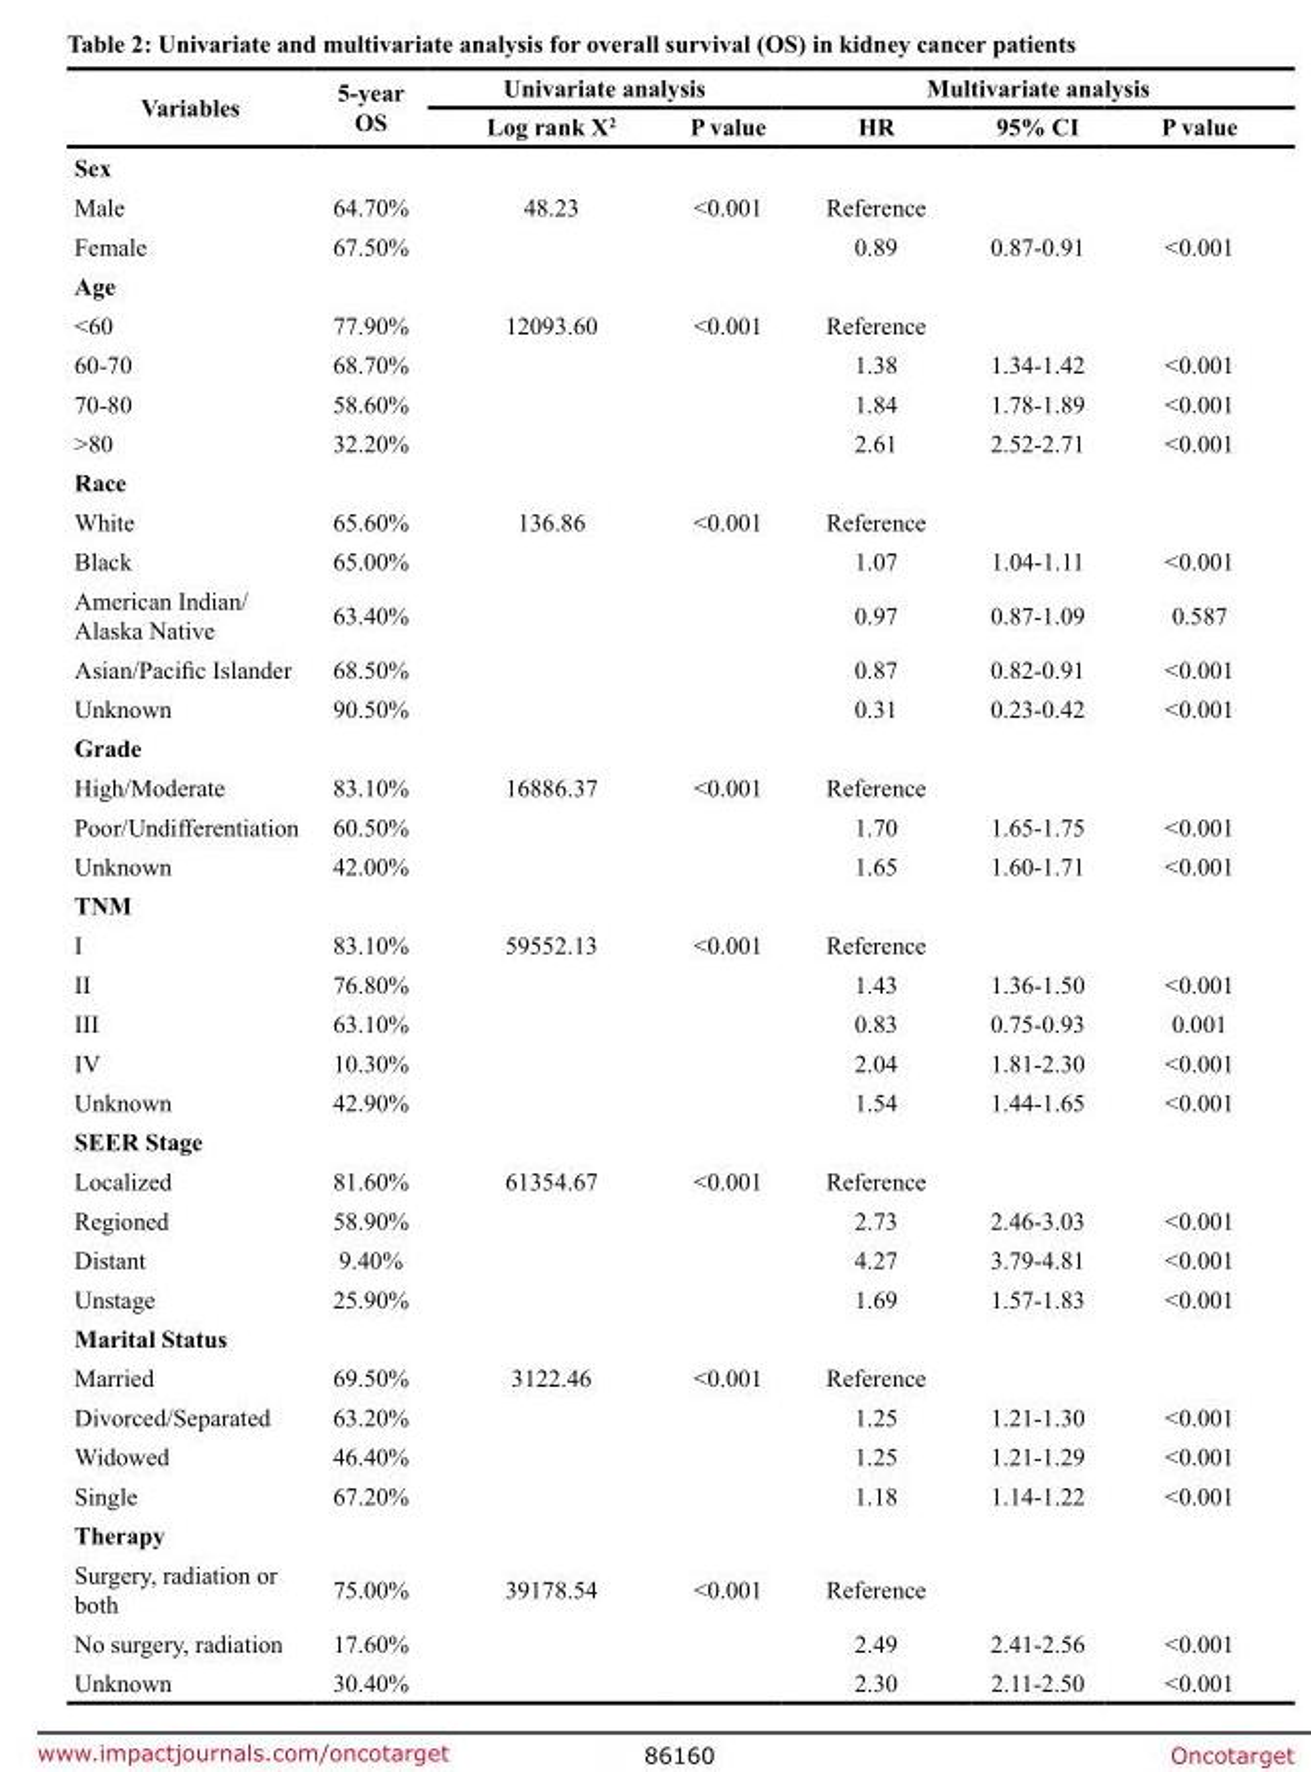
<table><thead><tr><td rowspan="2">Variables</td><td rowspan="2">5-year OS</td><td colspan="2">Univariate analysis</td><td colspan="3">Multivariate analysis</td></tr><tr><td>Log rank Χ<sup>2</sup></td><td>P value</td><td>HR</td><td>95% CI</td><td>P value</td></tr></thead><tbody><tr><td colspan="7">Sex</td></tr><tr><td>Male</td><td>64.70%</td><td>48.23</td><td>&lt;0.001</td><td>Reference</td><td></td><td></td></tr><tr><td>Female</td><td>67.50%</td><td></td><td></td><td>0.89</td><td>0.87-0.91</td><td>&lt;0.001</td></tr><tr><td colspan="7">Age</td></tr><tr><td>&lt;60</td><td>77.90%</td><td>12093.60</td><td>&lt;0.001</td><td>Reference</td><td></td><td></td></tr><tr><td>60-70</td><td>68.70%</td><td></td><td></td><td>1.38</td><td>1.34-1.42</td><td>&lt;0.001</td></tr><tr><td>70-80</td><td>58.60%</td><td></td><td></td><td>1.84</td><td>1.78-1.89</td><td>&lt;0.001</td></tr><tr><td>&gt;80</td><td>32.20%</td><td></td><td></td><td>2.61</td><td>2.52-2.71</td><td>&lt;0.001</td></tr><tr><td colspan="7">Race</td></tr><tr><td>White</td><td>65.60%</td><td>136.86</td><td>&lt;0.001</td><td>Reference</td><td></td><td></td></tr><tr><td>Black</td><td>65.00%</td><td></td><td></td><td>1.07</td><td>1.04-1.11</td><td>&lt;0.001</td></tr><tr><td>American Indian/ Alaska Native</td><td>63.40%</td><td></td><td></td><td>0.97</td><td>0.87-1.09</td><td>0.587</td></tr><tr><td>Asian/Pacific Islander</td><td>68.50%</td><td></td><td></td><td>0.87</td><td>0.82-0.91</td><td>&lt;0.001</td></tr><tr><td>Unknown</td><td>90.50%</td><td></td><td></td><td>0.31</td><td>0.23-0.42</td><td>&lt;0.001</td></tr><tr><td colspan="7">Grade</td></tr><tr><td>High/Moderate</td><td>83.10%</td><td>16886.37</td><td>&lt;0.001</td><td>Reference</td><td></td><td></td></tr><tr><td>Poor/Undifferentiation</td><td>60.50%</td><td></td><td></td><td>1.70</td><td>1.65-1.75</td><td>&lt;0.001</td></tr><tr><td>Unknown</td><td>42.00%</td><td></td><td></td><td>1.65</td><td>1.60-1.71</td><td>&lt;0.001</td></tr><tr><td colspan="7">TNM</td></tr><tr><td>I</td><td>83.10%</td><td>59552.13</td><td>&lt;0.001</td><td>Reference</td><td></td><td></td></tr><tr><td>II</td><td>76.80%</td><td></td><td></td><td>1.43</td><td>1.36-1.50</td><td>&lt;0.001</td></tr><tr><td>III</td><td>63.10%</td><td></td><td></td><td>0.83</td><td>0.75-0.93</td><td>0.001</td></tr><tr><td>IV</td><td>10.30%</td><td></td><td></td><td>2.04</td><td>1.81-2.30</td><td>&lt;0.001</td></tr><tr><td>Unknown</td><td>42.90%</td><td></td><td></td><td>1.54</td><td>1.44-1.65</td><td>&lt;0.001</td></tr><tr><td colspan="7">SEER Stage</td></tr><tr><td>Localized</td><td>81.60%</td><td>61354.67</td><td>&lt;0.001</td><td>Reference</td><td></td><td></td></tr><tr><td>Regioned</td><td>58.90%</td><td></td><td></td><td>2.73</td><td>2.46-3.03</td><td>&lt;0.001</td></tr><tr><td>Distant</td><td>9.40%</td><td></td><td></td><td>4.27</td><td>3.79-4.81</td><td>&lt;0.001</td></tr><tr><td>Unstage</td><td>25.90%</td><td></td><td></td><td>1.69</td><td>1.57-1.83</td><td>&lt;0.001</td></tr><tr><td colspan="7">Marital Status</td></tr><tr><td>Married</td><td>69.50%</td><td>3122.46</td><td>&lt;0.001</td><td>Reference</td><td></td><td></td></tr><tr><td>Divorced/Separated</td><td>63.20%</td><td></td><td></td><td>1.25</td><td>1.21-1.30</td><td>&lt;0.001</td></tr><tr><td>Widowed</td><td>46.40%</td><td></td><td></td><td>1.25</td><td>1.21-1.29</td><td>&lt;0.001</td></tr><tr><td>Single</td><td>67.20%</td><td></td><td></td><td>1.18</td><td>1.14-1.22</td><td>&lt;0.001</td></tr><tr><td colspan="7">Therapy</td></tr><tr><td>Surgery, radiation or both</td><td>75.00%</td><td>39178.54</td><td>&lt;0.001</td><td>Reference</td><td></td><td></td></tr><tr><td>No surgery, radiation</td><td>17.60%</td><td></td><td></td><td>2.49</td><td>2.41-2.56</td><td>&lt;0.001</td></tr><tr><td>Unknown</td><td>30.40%</td><td></td><td></td><td>2.30</td><td>2.11-2.50</td><td>&lt;0.001</td></tr></tbody></table>